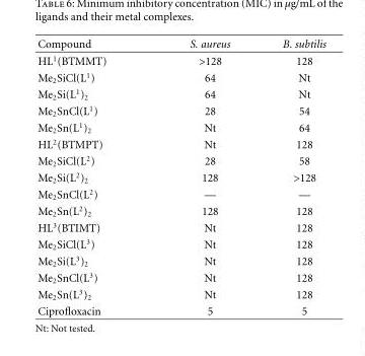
<table><thead><tr><td>Compound</td><td>S. aureus</td><td>B. subtilis</td></tr></thead><tbody><tr><td>HL<sup>1</sup>(BTMMT)</td><td>&gt;128</td><td>128</td></tr><tr><td>Me<sub>2</sub>SiCl(L<sup>1</sup>)</td><td>64</td><td>Nt</td></tr><tr><td>Me<sub>2</sub>Si(L<sup>1</sup>)<sub>2</sub></td><td>64</td><td>Nt</td></tr><tr><td>Me<sub>2</sub>SnCl(L<sup>1</sup>)</td><td>28</td><td>54</td></tr><tr><td>Me<sub>2</sub>Sn(L<sup>1</sup>)<sub>2</sub></td><td>Nt</td><td>64</td></tr><tr><td>HL<sup>2</sup>(BTMPT)</td><td>Nt</td><td>128</td></tr><tr><td>Me<sub>2</sub>SiCl(L<sup>2</sup>)</td><td>28</td><td>58</td></tr><tr><td>Me<sub>2</sub>Si(L<sup>2</sup>)<sub>2</sub></td><td>128</td><td>&gt;128</td></tr><tr><td>Me<sub>2</sub>SnCl(L<sup>2</sup>)</td><td>—</td><td>—</td></tr><tr><td>Me<sub>2</sub>Sn(L<sup>2</sup>)<sub>2</sub></td><td>128</td><td>128</td></tr><tr><td>HL<sup>3</sup>(BTIMT)</td><td>Nt</td><td>128</td></tr><tr><td>Me<sub>2</sub>SiCl(L<sup>3</sup>)</td><td>Nt</td><td>128</td></tr><tr><td>Me<sub>2</sub>Si(L<sup>3</sup>)<sub>2</sub></td><td>Nt</td><td>128</td></tr><tr><td>Me<sub>2</sub>SnCl(L<sup>3</sup>)</td><td>Nt</td><td>128</td></tr><tr><td>Me<sub>2</sub>Sn(L<sup>3</sup>)<sub>2</sub></td><td>Nt</td><td>128</td></tr><tr><td>Ciprofloxacin</td><td>5</td><td>5</td></tr></tbody></table>